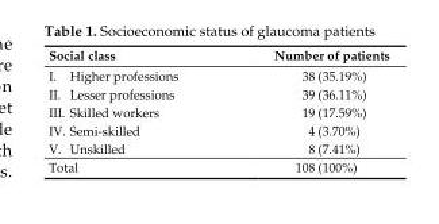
<table><thead><tr><td colspan="2">Social class</td><td rowspan="2">Number of patients 38 (35.19%)</td></tr><tr><td>I.</td><td>Higher professions</td></tr></thead><tbody><tr><td>II.</td><td>Lesser professions</td><td>39 (36.11%)</td></tr><tr><td>III.</td><td>Skilled workers</td><td>19 (17.59%)</td></tr><tr><td>IV.</td><td>Semi-skilled</td><td>4 (3.70%)</td></tr><tr><td>V.</td><td>Unskilled</td><td>8 (7.41%)</td></tr><tr><td colspan="2">Total</td><td>108 (100%)</td></tr></tbody></table>